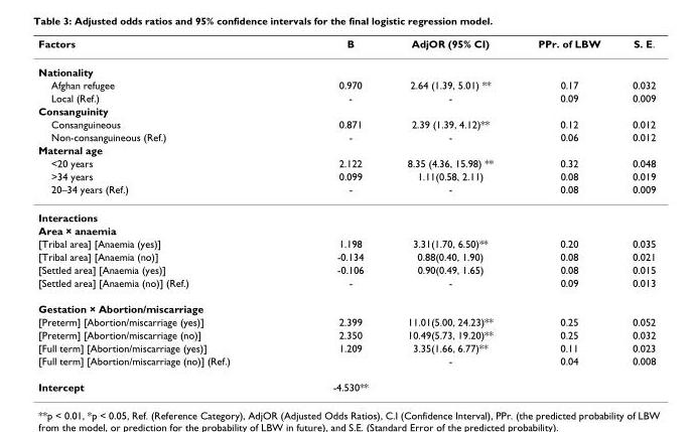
<table><thead><tr><td>Factors</td><td>B</td><td>AdjOR (95% CI)</td><td>PPr. of LBW</td><td>S. E.</td></tr></thead><tbody><tr><td colspan="5">Nationality</td></tr><tr><td>Afghan refugee</td><td>0.970</td><td>2.64 (1.39, 5.01) **</td><td>0.17</td><td>0.032</td></tr><tr><td>Local (Ref.)</td><td>-</td><td>-</td><td>0.09</td><td>0.009</td></tr><tr><td colspan="5">Consanguinity</td></tr><tr><td>Consanguineous</td><td>0.871</td><td>2.39 (1.39, 4.12)**</td><td>0.12</td><td>0.012</td></tr><tr><td>Non-consanguineous (Ref.)</td><td>-</td><td>-</td><td>0.06</td><td>0.012</td></tr><tr><td colspan="5">Maternal age</td></tr><tr><td>&lt;20 years</td><td>2.122</td><td>8.35 (4.36, 15.98) **</td><td>0.32</td><td>0.048</td></tr><tr><td>&gt;34 years</td><td>0.099</td><td>1.11(0.58, 2.11)</td><td>0.08</td><td>0.019</td></tr><tr><td>20–34 years (Ref.)</td><td>-</td><td>-</td><td>0.08</td><td>0.009</td></tr><tr><td colspan="5">Interactions</td></tr><tr><td colspan="5">Area × anaemia</td></tr><tr><td>[Tribal area] [Anaemia (yes)]</td><td>1.198</td><td>3.31(1.70, 6.50)**</td><td>0.20</td><td>0.035</td></tr><tr><td>[Tribal area] [Anaemia (no)]</td><td>-0.134</td><td>0.88(0.40, 1.90)</td><td>0.08</td><td>0.021</td></tr><tr><td>[Settled area] [Anaemia (yes)]</td><td>-0.106</td><td>0.90(0.49, 1.65)</td><td>0.08</td><td>0.015</td></tr><tr><td>[Settled area] [Anaemia (no)] (Ref.)</td><td>-</td><td>-</td><td>0.09</td><td>0.013</td></tr><tr><td colspan="5">Gestation × Abortion/miscarriage</td></tr><tr><td>[Preterm] [Abortion/miscarriage (yes)]</td><td>2.399</td><td>11.01(5.00, 24.23)**</td><td>0.25</td><td>0.052</td></tr><tr><td>[Preterm] [Abortion/miscarriage (no)]</td><td>2.350</td><td>10.49(5.73, 19.20)**</td><td>0.25</td><td>0.032</td></tr><tr><td>[Full term] [Abortion/miscarriage (yes)]</td><td>1.209</td><td>3.35(1.66, 6.77)**</td><td>0.11</td><td>0.023</td></tr><tr><td>[Full term] [Abortion/miscarriage (no)] (Ref.)</td><td></td><td>-</td><td>0.04</td><td>0.008</td></tr><tr><td>Intercept</td><td>-4.530**</td><td></td><td></td><td></td></tr></tbody></table>